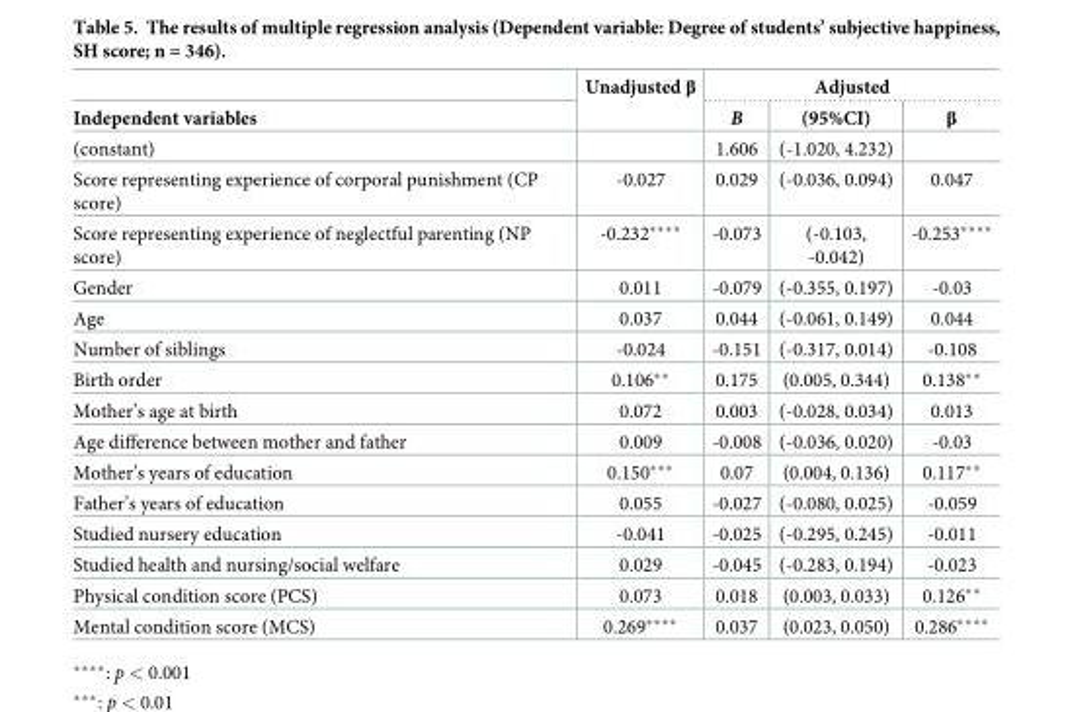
<table><thead><tr><td rowspan="2">Independent variables</td><td rowspan="2">Unadjusted β</td><td colspan="3">Adjusted</td></tr><tr><td>B</td><td>(95%CI)</td><td>β</td></tr></thead><tbody><tr><td>(constant)</td><td></td><td>1.606</td><td>(-1.020, 4.232)</td><td></td></tr><tr><td>Score representing experience of corporal punishment (CP score)</td><td>-0.027</td><td>0.029</td><td>(-0.036, 0.094)</td><td>0.047</td></tr><tr><td>Score representing experience of neglectful parenting (NP score)</td><td>-0.232****</td><td>-0.073</td><td>(-0.103, -0.042)</td><td>-0.253****</td></tr><tr><td>Gender</td><td>0.011</td><td>-0.079</td><td>(-0.355, 0.197)</td><td>-0.03</td></tr><tr><td>Age</td><td>0.037</td><td>0.044</td><td>(-0.061, 0.149)</td><td>0.044</td></tr><tr><td>Number of siblings</td><td>-0.024</td><td>-0.151</td><td>(-0.317, 0.014)</td><td>-0.108</td></tr><tr><td>Birth order</td><td>0.106**</td><td>0.175</td><td>(0.005, 0.344)</td><td>0.138**</td></tr><tr><td>Mother’s age at birth</td><td>0.072</td><td>0.003</td><td>(-0.028, 0.034)</td><td>0.013</td></tr><tr><td>Age difference between mother and father</td><td>0.009</td><td>-0.008</td><td>(-0.036, 0.020)</td><td>-0.03</td></tr><tr><td>Mother’s years of education</td><td>0.150***</td><td>0.07</td><td>(0.004, 0.136)</td><td>0.117**</td></tr><tr><td>Father’s years of education</td><td>0.055</td><td>-0.027</td><td>(-0.080, 0.025)</td><td>-0.059</td></tr><tr><td>Studied nursery education</td><td>-0.041</td><td>-0.025</td><td>(-0.295, 0.245)</td><td>-0.011</td></tr><tr><td>Studied health and nursing/social welfare</td><td>0.029</td><td>-0.045</td><td>(-0.283, 0.194)</td><td>-0.023</td></tr><tr><td>Physical condition score (PCS)</td><td>0.073</td><td>0.018</td><td>(0.003, 0.033)</td><td>0.126**</td></tr><tr><td>Mental condition score (MCS)</td><td>0.269****</td><td>0.037</td><td>(0.023, 0.050)</td><td>0.286****</td></tr></tbody></table>